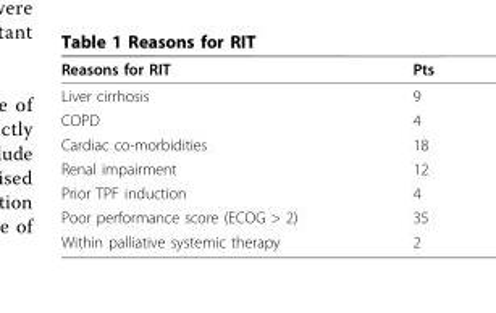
<table><thead><tr><td>Reasons for RIT</td><td>Pts</td></tr></thead><tbody><tr><td>Liver cirrhosis</td><td>9</td></tr><tr><td>COPD</td><td>4</td></tr><tr><td>Cardiac co-morbidities</td><td>18</td></tr><tr><td>Renal impairment</td><td>12</td></tr><tr><td>Prior TPF induction</td><td>4</td></tr><tr><td>Poor performance score (ECOG &gt; 2)</td><td>35</td></tr><tr><td>Within palliative systemic therapy</td><td>2</td></tr></tbody></table>